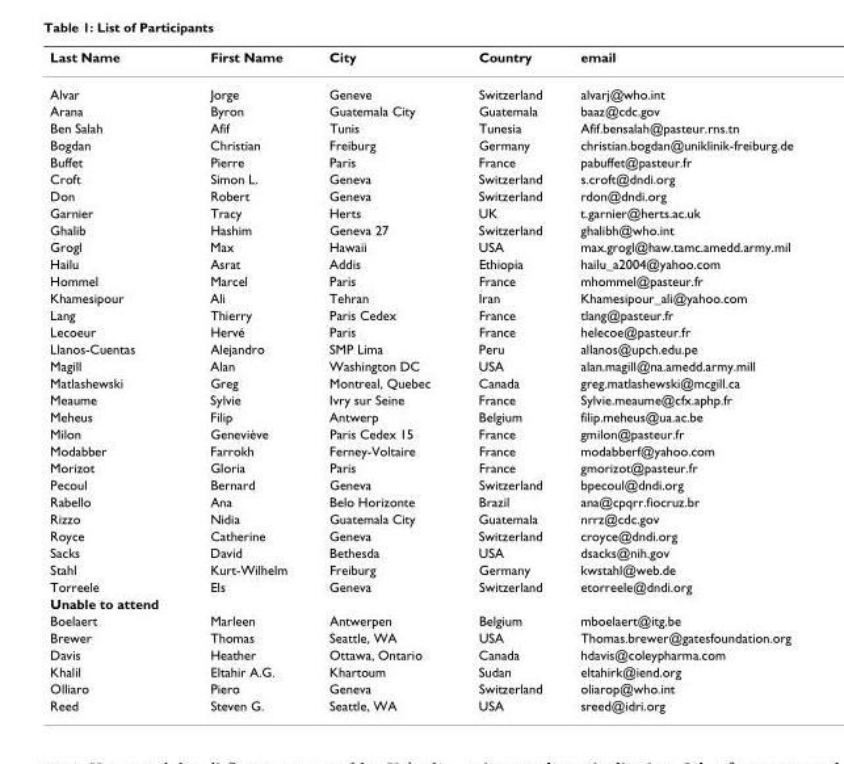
<table><thead><tr><td>Last Name</td><td>First Name</td><td>City</td><td>Country</td><td>email</td></tr></thead><tbody><tr><td>Alvar</td><td>Jorge</td><td>Geneve</td><td>Switzerland</td><td>alvarj@who.int</td></tr><tr><td>Arana</td><td>Byron</td><td>Guatemala City</td><td>Guatemala</td><td>baaz@cdc.gov</td></tr><tr><td>Ben Salah</td><td>Afif</td><td>Tunis</td><td>Tunesia</td><td>Afif.bensalah@pasteur.rns.tn</td></tr><tr><td>Bogdan</td><td>Christian</td><td>Freiburg</td><td>Germany</td><td>christian.bogdan@uniklinik-freiburg.de</td></tr><tr><td>Buffet</td><td>Pierre</td><td>Paris</td><td>France</td><td>pabuffet@pasteur.fr</td></tr><tr><td>Croft</td><td>Simon L.</td><td>Geneva</td><td>Switzerland</td><td>s.croft@dndi.org</td></tr><tr><td>Don</td><td>Robert</td><td>Geneva</td><td>Switzerland</td><td>rdon@dndi.org</td></tr><tr><td>Garnier</td><td>Tracy</td><td>Herts</td><td>UK</td><td>t.garnier@herts.ac.uk</td></tr><tr><td>Ghalib</td><td>Hashim</td><td>Geneva 27</td><td>Switzerland</td><td>ghalibh@who.int</td></tr><tr><td>Grogl</td><td>Max</td><td>Hawaii</td><td>USA</td><td>max.grogl@haw.tamc.amedd.army.mil</td></tr><tr><td>Hailu</td><td>Asrat</td><td>Addis</td><td>Ethiopia</td><td>hailu_a2004@yahoo.com</td></tr><tr><td>Hommel</td><td>Marcel</td><td>Paris</td><td>France</td><td>mhommel@pasteur.fr</td></tr><tr><td>Khamesipour</td><td>Ali</td><td>Tehran</td><td>Iran</td><td>Khamesipour_ali@yahoo.com</td></tr><tr><td>Lang</td><td>Thierry</td><td>Paris Cedex</td><td>France</td><td>tlang@pasteur.fr</td></tr><tr><td>Lecoeur</td><td>Hervé</td><td>Paris</td><td>France</td><td>helecoe@pasteur.fr</td></tr><tr><td>Llanos-Cuentas</td><td>Alejandro</td><td>SMP Lima</td><td>Peru</td><td>allanos@upch.edu.pe</td></tr><tr><td>Magill</td><td>Alan</td><td>Washington DC</td><td>USA</td><td>alan.magill@na.amedd.army.mill</td></tr><tr><td>Matlashewski</td><td>Greg</td><td>Montreal, Quebec</td><td>Canada</td><td>greg.matlashewski@mcgill.ca</td></tr><tr><td>Meaume</td><td>Sylvie</td><td>Ivry sur Seine</td><td>France</td><td>Sylvie.meaume@cfx.aphp.fr</td></tr><tr><td>Meheus</td><td>Filip</td><td>Antwerp</td><td>Belgium</td><td>filip.meheus@ua.ac.be</td></tr><tr><td>Milon</td><td>Geneviève</td><td>Paris Cedex 15</td><td>France</td><td>gmilon@pasteur.fr</td></tr><tr><td>Modabber</td><td>Farrokh</td><td>Ferney-Voltaire</td><td>France</td><td>modabberf@yahoo.com</td></tr><tr><td>Morizot</td><td>Gloria</td><td>Paris</td><td>France</td><td>gmorizot@pasteur.fr</td></tr><tr><td>Pecoul</td><td>Bernard</td><td>Geneva</td><td>Switzerland</td><td>bpecoul@dndi.org</td></tr><tr><td>Rabello</td><td>Ana</td><td>Belo Horizonte</td><td>Brazil</td><td>ana@cpqrr.fiocruz.br</td></tr><tr><td>Rizzo</td><td>Nidia</td><td>Guatemala City</td><td>Guatemala</td><td>nrrz@cdc.gov</td></tr><tr><td>Royce</td><td>Catherine</td><td>Geneva</td><td>Switzerland</td><td>croyce@dndi.org</td></tr><tr><td>Sacks</td><td>David</td><td>Bethesda</td><td>USA</td><td>dsacks@nih.gov</td></tr><tr><td>Stahl</td><td>Kurt-Wilhelm</td><td>Freiburg</td><td>Germany</td><td>kwstahl@web.de</td></tr><tr><td>Torreele</td><td>Els</td><td>Geneva</td><td>Switzerland</td><td>etorreele@dndi.org</td></tr><tr><td colspan="5">Unable to attend</td></tr><tr><td>Boelaert</td><td>Marleen</td><td>Antwerpen</td><td>Belgium</td><td>mboelaert@itg.be</td></tr><tr><td>Brewer</td><td>Thomas</td><td>Seattle, WA</td><td>USA</td><td>Thomas.brewer@gatesfoundation.org</td></tr><tr><td>Davis</td><td>Heather</td><td>Ottawa, Ontario</td><td>Canada</td><td>hdavis@coleypharma.com</td></tr><tr><td>Khalil</td><td>Eltahir A.G.</td><td>Khartoum</td><td>Sudan</td><td>eltahirk@iend.org</td></tr><tr><td>Olliaro</td><td>Piero</td><td>Geneva</td><td>Switzerland</td><td>oliarop@who.int</td></tr><tr><td>Reed</td><td>Steven G.</td><td>Seattle, WA</td><td>USA</td><td>sreed@idri.org</td></tr></tbody></table>